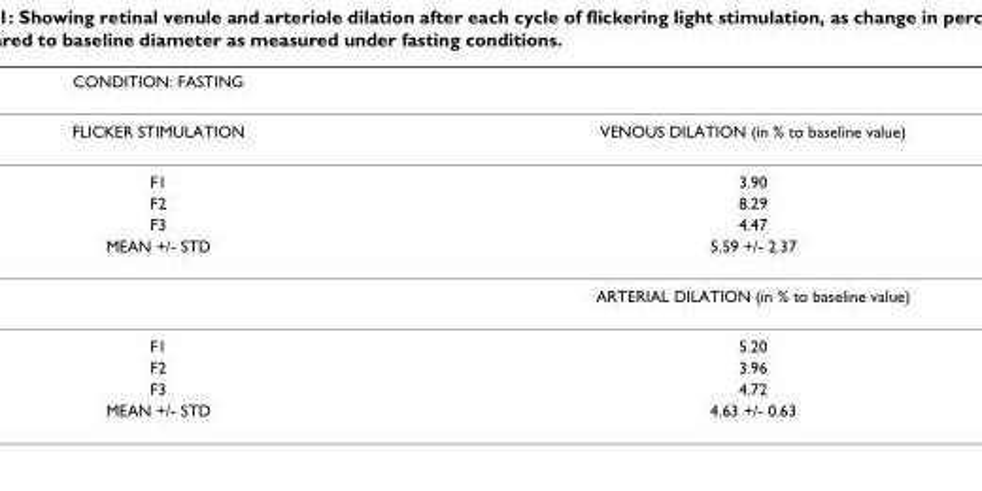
<table><thead><tr><td>CONDITION: FASTING</td><td></td></tr></thead><tbody><tr><td>FLICKER STIMULATION</td><td>VENOUS DILATION (in % to baseline value)</td></tr><tr><td>F1</td><td>3.90</td></tr><tr><td>F2</td><td>8.29</td></tr><tr><td>F3</td><td>4.47</td></tr><tr><td rowspan="2">MEAN +/- STD</td><td>5.59 +/- 2.37</td></tr><tr><td>ARTERIAL DILATION (in % to baseline value)</td></tr><tr><td>F1</td><td>5.20</td></tr><tr><td>F2</td><td>3.96</td></tr><tr><td>F3</td><td>4.72</td></tr><tr><td>MEAN +/- STD</td><td>4.63 +/- 0.63</td></tr></tbody></table>